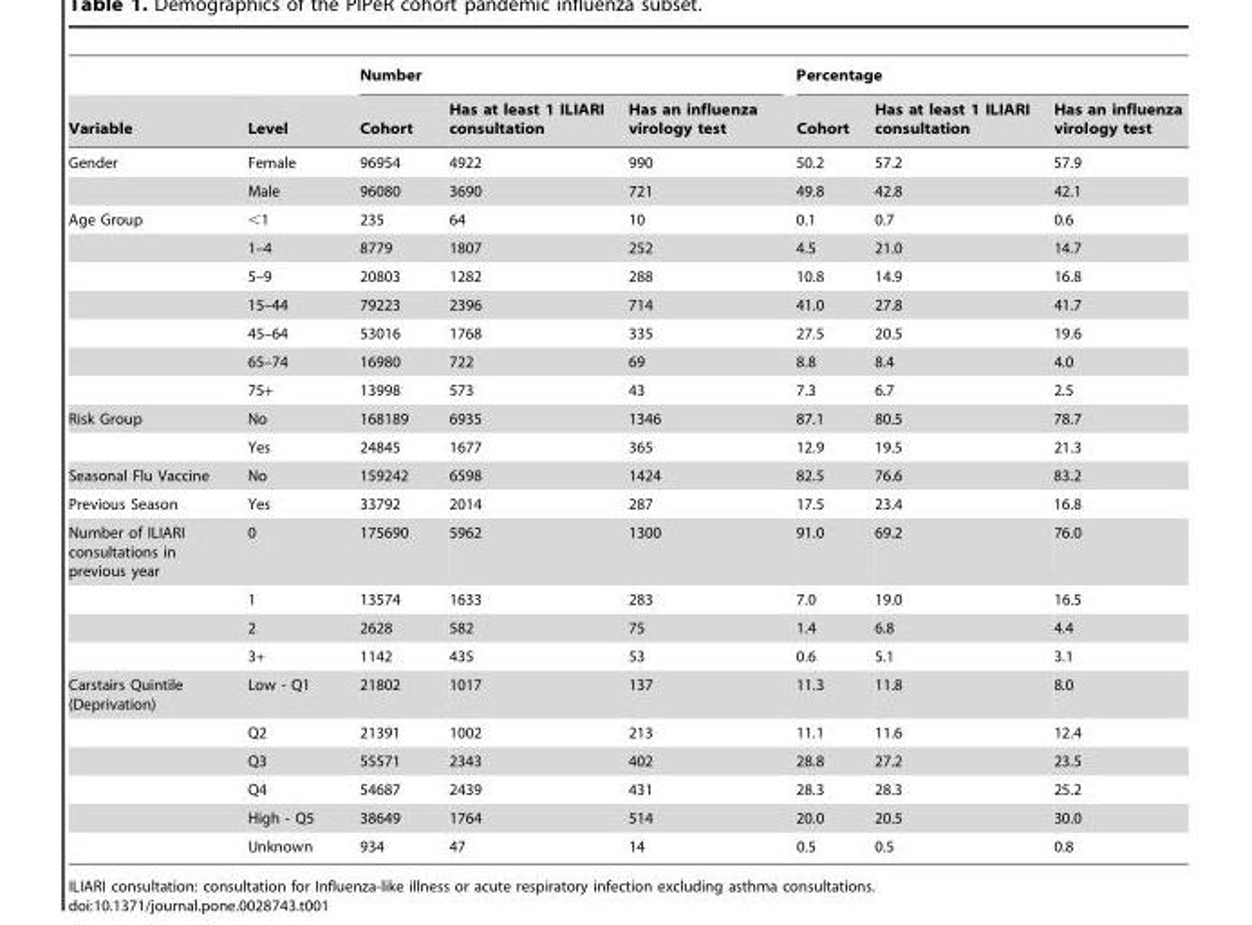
<table><thead><tr><td rowspan="2">Variable</td><td rowspan="2">Level</td><td colspan="3">Number</td><td colspan="3">Percentage</td></tr><tr><td>Cohort</td><td>Has at least 1 ILIARI consultation</td><td>Has an influenza virology test</td><td>Cohort</td><td>Has at least 1 ILIARI consultation</td><td>Has an influenza virology test</td></tr></thead><tbody><tr><td rowspan="2">Gender</td><td>Female</td><td>96954</td><td>4922</td><td>990</td><td>50.2</td><td>57.2</td><td>57.9</td></tr><tr><td>Male</td><td>96080</td><td>3690</td><td>721</td><td>49.8</td><td>42.8</td><td>42.1</td></tr><tr><td rowspan="7">Age Group</td><td>&lt;1</td><td>235</td><td>64</td><td>10</td><td>0.1</td><td>0.7</td><td>0.6</td></tr><tr><td>1–4</td><td>8779</td><td>1807</td><td>252</td><td>4.5</td><td>21.0</td><td>14.7</td></tr><tr><td>5–9</td><td>20803</td><td>1282</td><td>288</td><td>10.8</td><td>14.9</td><td>16.8</td></tr><tr><td>15–44</td><td>79223</td><td>2396</td><td>714</td><td>41.0</td><td>27.8</td><td>41.7</td></tr><tr><td>45–64</td><td>53016</td><td>1768</td><td>335</td><td>27.5</td><td>20.5</td><td>19.6</td></tr><tr><td>65–74</td><td>16980</td><td>722</td><td>69</td><td>8.8</td><td>8.4</td><td>4.0</td></tr><tr><td>75+</td><td>13998</td><td>573</td><td>43</td><td>7.3</td><td>6.7</td><td>2.5</td></tr><tr><td rowspan="2">Risk Group</td><td>No</td><td>168189</td><td>6935</td><td>1346</td><td>87.1</td><td>80.5</td><td>78.7</td></tr><tr><td>Yes</td><td>24845</td><td>1677</td><td>365</td><td>12.9</td><td>19.5</td><td>21.3</td></tr><tr><td>Seasonal Flu Vaccine</td><td>No</td><td>159242</td><td>6598</td><td>1424</td><td>82.5</td><td>76.6</td><td>83.2</td></tr><tr><td>Previous Season</td><td>Yes</td><td>33792</td><td>2014</td><td>287</td><td>17.5</td><td>23.4</td><td>16.8</td></tr><tr><td rowspan="4">Number of ILIARI consultations in previous year</td><td>0</td><td>175690</td><td>5962</td><td>1300</td><td>91.0</td><td>69.2</td><td>76.0</td></tr><tr><td>1</td><td>13574</td><td>1633</td><td>283</td><td>7.0</td><td>19.0</td><td>16.5</td></tr><tr><td>2</td><td>2628</td><td>582</td><td>75</td><td>1.4</td><td>6.8</td><td>4.4</td></tr><tr><td>3+</td><td>1142</td><td>435</td><td>53</td><td>0.6</td><td>5.1</td><td>3.1</td></tr><tr><td rowspan="6">Carstairs Quintile (Deprivation)</td><td>Low - Q1</td><td>21802</td><td>1017</td><td>137</td><td>11.3</td><td>11.8</td><td>8.0</td></tr><tr><td>Q2</td><td>21391</td><td>1002</td><td>213</td><td>11.1</td><td>11.6</td><td>12.4</td></tr><tr><td>Q3</td><td>55571</td><td>2343</td><td>402</td><td>28.8</td><td>27.2</td><td>23.5</td></tr><tr><td>Q4</td><td>54687</td><td>2439</td><td>431</td><td>28.3</td><td>28.3</td><td>25.2</td></tr><tr><td>High - Q5</td><td>38649</td><td>1764</td><td>514</td><td>20.0</td><td>20.5</td><td>30.0</td></tr><tr><td>Unknown</td><td>934</td><td>47</td><td>14</td><td>0.5</td><td>0.5</td><td>0.8</td></tr></tbody></table>